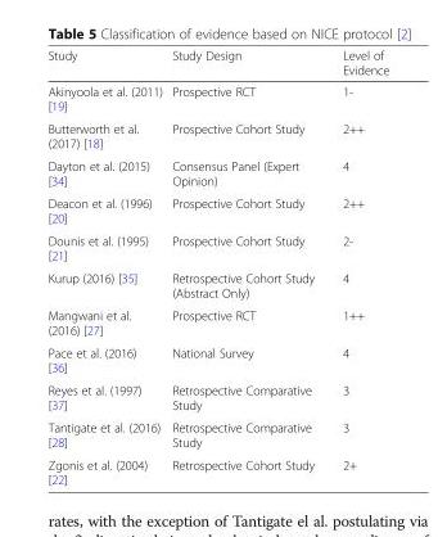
<table><thead><tr><td>Study</td><td>Study Design</td><td>Level of Evidence</td></tr></thead><tbody><tr><td>Akinyoola et al. (2011) [19]</td><td>Prospective RCT</td><td>1-</td></tr><tr><td>Butterworth et al. (2017) [18]</td><td>Prospective Cohort Study</td><td>2++</td></tr><tr><td>Dayton et al. (2015) [34]</td><td>Consensus Panel (Expert Opinion)</td><td>4</td></tr><tr><td>Deacon et al. (1996) [20]</td><td>Prospective Cohort Study</td><td>2++</td></tr><tr><td>Dounis et al. (1995) [21]</td><td>Prospective Cohort Study</td><td>2-</td></tr><tr><td>Kurup (2016) [35]</td><td>Retrospective Cohort Study (Abstract Only)</td><td>4</td></tr><tr><td>Mangwani et al. (2016) [27]</td><td>Prospective RCT</td><td>1++</td></tr><tr><td>Pace et al. (2016) [36]</td><td>National Survey</td><td>4</td></tr><tr><td>Reyes et al. (1997) [37]</td><td>Retrospective Comparative Study</td><td>3</td></tr><tr><td>Tantigate et al. (2016) [28]</td><td>Retrospective Comparative Study</td><td>3</td></tr><tr><td>Zgonis et al. (2004) [22]</td><td>Retrospective Cohort Study</td><td>2+</td></tr></tbody></table>